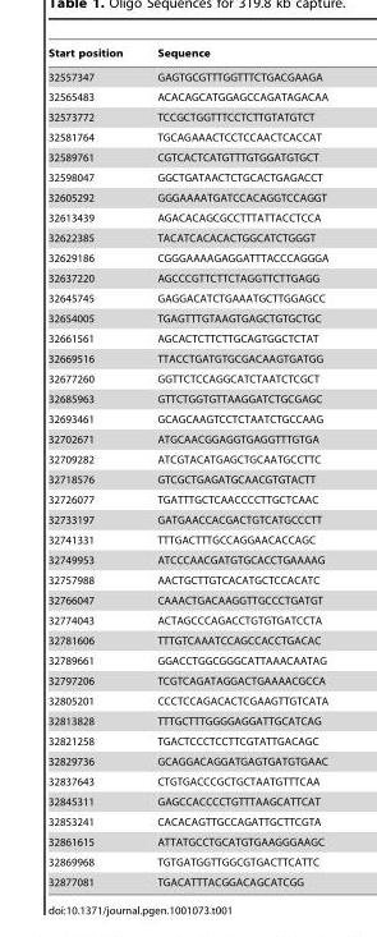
<table><thead><tr><td>Start position</td><td>Sequence</td></tr></thead><tbody><tr><td>32557347</td><td>GAGTGCGTTTGGTTTCTGACGAAGA</td></tr><tr><td>32565483</td><td>ACACAGCATGGAGCCAGATAGACAA</td></tr><tr><td>32573772</td><td>TCCGCTGGTTTCCTCTTGTATGTCT</td></tr><tr><td>32581764</td><td>TGCAGAAACTCCTCCAACTCACCAT</td></tr><tr><td>32589761</td><td>CGTCACTCATGTTTGTGGATGTGCT</td></tr><tr><td>32598047</td><td>GGCTGATAACTCTGCACTGAGACCT</td></tr><tr><td>32605292</td><td>GGGAAAATGATCCACAGGTCCAGGT</td></tr><tr><td>32613439</td><td>AGACACAGCGCCTTTATTACCTCCA</td></tr><tr><td>32622385</td><td>TACATCACACACTGGCATCTGGGT</td></tr><tr><td>32629186</td><td>CGGGAAAAGAGGATTTACCCAGGGA</td></tr><tr><td>32637220</td><td>AGCCCGTTCTTCTAGGTTCTTGAGG</td></tr><tr><td>32645745</td><td>GAGGACATCTGAAATGCTTGGAGCC</td></tr><tr><td>32654005</td><td>TGAGTTTGTAAGTGAGCTGTGCTGC</td></tr><tr><td>32661561</td><td>AGCACTCTTCTTGCAGTGGCTCTAT</td></tr><tr><td>32669516</td><td>TTACCTGATGTGCGACAAGTGATGG</td></tr><tr><td>32677260</td><td>GGTTCTCCAGGCATCTAATCTCGCT</td></tr><tr><td>32685963</td><td>GTTCTGGTGTTAAGGATCTGCGAGC</td></tr><tr><td>32693461</td><td>GCAGCAAGTCCTCTAATCTGCCAAG</td></tr><tr><td>32702671</td><td>ATGCAACGGAGGTGAGGTTTGTGA</td></tr><tr><td>32709282</td><td>ATCGTACATGAGCTGCAATGCCTTC</td></tr><tr><td>32718576</td><td>GTCGCTGAGATGCAACGTGTACTT</td></tr><tr><td>32726077</td><td>TGATTTGCTCAACCCCTTGCTCAAC</td></tr><tr><td>32733197</td><td>GATGAACCACGACTGTCATGCCCTT</td></tr><tr><td>32741331</td><td>TTTGACTTTGCCAGGAACACCAGC</td></tr><tr><td>32749953</td><td>ATCCCAACGATGTGCACCTGAAAAG</td></tr><tr><td>32757988</td><td>AACTGCTTGTCACATGCTCCACATC</td></tr><tr><td>32766047</td><td>CAAACTGACAAGGTTGCCCTGATGT</td></tr><tr><td>32774043</td><td>ACTAGCCCAGACCTGTGTGATCCTA</td></tr><tr><td>32781606</td><td>TTTGTCAAATCCAGCCACCTGACAC</td></tr><tr><td>32789661</td><td>GGACCTGGCGGGCATTAAACAATAG</td></tr><tr><td>32797206</td><td>TCGTCAGATAGGACTGAAAACGCCA</td></tr><tr><td>32805201</td><td>CCCTCCAGACACTCGAAGTTGTCATA</td></tr><tr><td>32813828</td><td>TTTGCTTTGGGGAGGATTGCATCAG</td></tr><tr><td>32821258</td><td>TGACTCCCTCCTTCGTATTGACAGC</td></tr><tr><td>32829736</td><td>GCAGGACAGGATGAGTGATGTGAAC</td></tr><tr><td>32837643</td><td>CTGTGACCCGCTGCTAATGTTTCAA</td></tr><tr><td>32845311</td><td>GAGCCACCCCTGTTTAAGCATTCAT</td></tr><tr><td>32853241</td><td>CACACAGTTGCCAGATTGCTTCGTA</td></tr><tr><td>32861615</td><td>ATTATGCCTGCATGTGAAGGGAAGC</td></tr><tr><td>32869968</td><td>TGTGATGGTTGGCGTGACTTCATTC</td></tr><tr><td>32877081</td><td>TGACATTTACGGACAGCATCGG</td></tr></tbody></table>